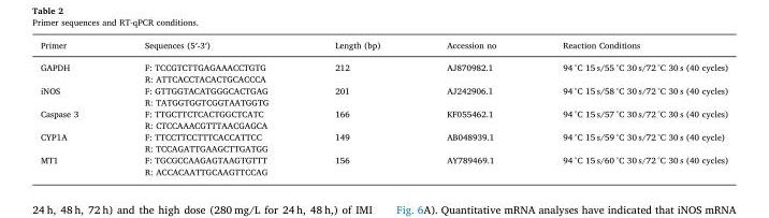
<table><thead><tr><td>Primer</td><td>Sequences (5′-3′)</td><td>Length (bp)</td><td>Accession no</td><td>Reaction Conditions</td></tr></thead><tbody><tr><td rowspan="2">GAPDH</td><td>F: TCCGTCTTGAGAAACCTGTG</td><td rowspan="2">212</td><td rowspan="2">AJ870982.1</td><td rowspan="2">94 °C 15 s/55 °C 30 s/72 °C 30 s (40 cycles)</td></tr><tr><td>R: ATTCACCTACACTGCACCCA</td></tr><tr><td rowspan="2">iNOS</td><td>F: GTTGGTACATGGGCACTGAG</td><td rowspan="2">201</td><td rowspan="2">AJ242906.1</td><td rowspan="2">94 °C 15 s/58 °C 30 s/72 °C 30 s (40 cycles)</td></tr><tr><td>R: TATGGTGGTCGGTAATGGTG</td></tr><tr><td rowspan="2">Caspase 3</td><td>F: TTGCTTCTCACTGGCTCATC</td><td rowspan="2">166</td><td rowspan="2">KF055462.1</td><td rowspan="2">94 °C 15 s/57 °C 30 s/72 °C 30 s (40 cycles)</td></tr><tr><td>R: CTCCAAACGTTTAACGAGCA</td></tr><tr><td rowspan="2">CYP1A</td><td>F: TTCCTTCCTTTCACCATTCC</td><td rowspan="2">149</td><td rowspan="2">AB048939.1</td><td rowspan="2">94 °C 15 s/59 °C 30 s/72 °C 30 s (40 cycle)</td></tr><tr><td>R: TCCAGATTGAAGCTTGATGG</td></tr><tr><td rowspan="2">MT1</td><td>F: TGCGCCAAGAGTAAGTGTTT</td><td rowspan="2">156</td><td rowspan="2">AY789469.1</td><td rowspan="2">94 °C 15 s/60 °C 30 s/72 °C 30 s (40 cycles)</td></tr><tr><td>R: ACCACAATTGCAAGTTCCAG</td></tr></tbody></table>